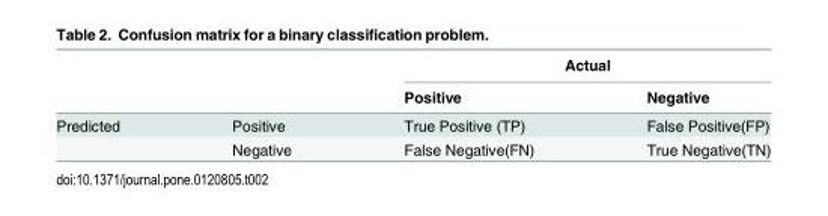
<table><thead><tr><td rowspan="2"></td><td rowspan="2"></td><td colspan="2">Actual</td></tr><tr><td>Positive</td><td>Negative</td></tr></thead><tbody><tr><td rowspan="2">Predicted</td><td>Positive</td><td>True Positive (TP)</td><td>False Positive(FP)</td></tr><tr><td>Negative</td><td>False Negative(FN)</td><td>True Negative(TN)</td></tr></tbody></table>